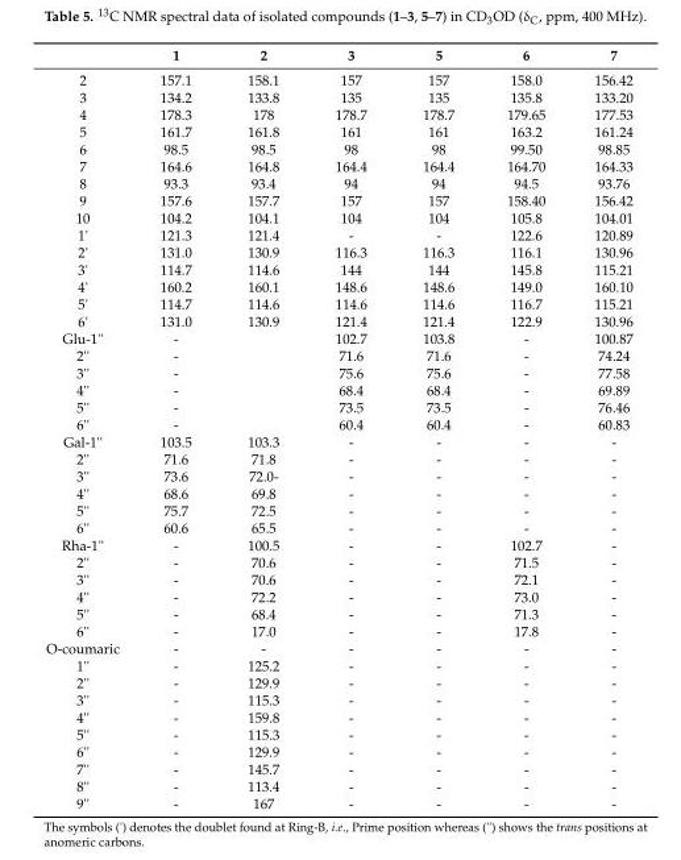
<table><thead><tr><td></td><td>1</td><td>2</td><td>3</td><td>5</td><td>6</td><td>7</td></tr></thead><tbody><tr><td>2</td><td>157.1</td><td>158.1</td><td>157</td><td>157</td><td>158.0</td><td>156.42</td></tr><tr><td>3</td><td>134.2</td><td>133.8</td><td>135</td><td>135</td><td>135.8</td><td>133.20</td></tr><tr><td>4</td><td>178.3</td><td>178</td><td>178.7</td><td>178.7</td><td>179.65</td><td>177.53</td></tr><tr><td>5</td><td>161.7</td><td>161.8</td><td>161</td><td>161</td><td>163.2</td><td>161.24</td></tr><tr><td>6</td><td>98.5</td><td>98.5</td><td>98</td><td>98</td><td>99.50</td><td>98.85</td></tr><tr><td>7</td><td>164.6</td><td>164.8</td><td>164.4</td><td>164.4</td><td>164.70</td><td>164.33</td></tr><tr><td>8</td><td>93.3</td><td>93.4</td><td>94</td><td>94</td><td>94.5</td><td>93.76</td></tr><tr><td>9</td><td>157.6</td><td>157.7</td><td>157</td><td>157</td><td>158.40</td><td>156.42</td></tr><tr><td>10</td><td>104.2</td><td>104.1</td><td>104</td><td>104</td><td>105.8</td><td>104.01</td></tr><tr><td>1&#x27;</td><td>121.3</td><td>121.4</td><td>-</td><td>-</td><td>122.6</td><td>120.89</td></tr><tr><td>2&#x27;</td><td>131.0</td><td>130.9</td><td>116.3</td><td>116.3</td><td>116.1</td><td>130.96</td></tr><tr><td>3&#x27;</td><td>114.7</td><td>114.6</td><td>144</td><td>144</td><td>145.8</td><td>115.21</td></tr><tr><td>4&#x27;</td><td>160.2</td><td>160.1</td><td>148.6</td><td>148.6</td><td>149.0</td><td>160.10</td></tr><tr><td>5&#x27;</td><td>114.7</td><td>114.6</td><td>114.6</td><td>114.6</td><td>116.7</td><td>115.21</td></tr><tr><td>6&#x27;</td><td>131.0</td><td>130.9</td><td>121.4</td><td>121.4</td><td>122.9</td><td>130.96</td></tr><tr><td>Glu-1&#x27;&#x27;</td><td>-</td><td></td><td>102.7</td><td>103.8</td><td>-</td><td>100.87</td></tr><tr><td>2&#x27;&#x27;</td><td>-</td><td></td><td>71.6</td><td>71.6</td><td>-</td><td>74.24</td></tr><tr><td>3&#x27;&#x27;</td><td>-</td><td></td><td>75.6</td><td>75.6</td><td>-</td><td>77.58</td></tr><tr><td>4&#x27;&#x27;</td><td>-</td><td></td><td>68.4</td><td>68.4</td><td>-</td><td>69.89</td></tr><tr><td>5&#x27;&#x27;</td><td>-</td><td></td><td>73.5</td><td>73.5</td><td>-</td><td>76.46</td></tr><tr><td>6&#x27;&#x27;</td><td>-</td><td></td><td>60.4</td><td>60.4</td><td>-</td><td>60.83</td></tr><tr><td>Gal-1&#x27;&#x27;</td><td>103.5</td><td>103.3</td><td>-</td><td>-</td><td>-</td><td>-</td></tr><tr><td>2&#x27;&#x27;</td><td>71.6</td><td>71.8</td><td>-</td><td>-</td><td>-</td><td>-</td></tr><tr><td>3&#x27;&#x27;</td><td>73.6</td><td>72.0-</td><td>-</td><td>-</td><td>-</td><td>-</td></tr><tr><td>4&#x27;&#x27;</td><td>68.6</td><td>69.8</td><td>-</td><td>-</td><td>-</td><td>-</td></tr><tr><td>5&#x27;&#x27;</td><td>75.7</td><td>72.5</td><td>-</td><td>-</td><td>-</td><td>-</td></tr><tr><td>6&#x27;&#x27;</td><td>60.6</td><td>65.5</td><td>-</td><td>-</td><td>-</td><td>-</td></tr><tr><td>Rha-1&#x27;&#x27;</td><td>-</td><td>100.5</td><td>-</td><td>-</td><td>102.7</td><td>-</td></tr><tr><td>2&#x27;&#x27;</td><td>-</td><td>70.6</td><td>-</td><td>-</td><td>71.5</td><td>-</td></tr><tr><td>3&#x27;&#x27;</td><td>-</td><td>70.6</td><td>-</td><td>-</td><td>72.1</td><td>-</td></tr><tr><td>4&#x27;&#x27;</td><td>-</td><td>72.2</td><td>-</td><td>-</td><td>73.0</td><td>-</td></tr><tr><td>5&#x27;&#x27;</td><td>-</td><td>68.4</td><td>-</td><td>-</td><td>71.3</td><td>-</td></tr><tr><td>6&#x27;&#x27;</td><td>-</td><td>17.0</td><td>-</td><td>-</td><td>17.8</td><td>-</td></tr><tr><td>O-coumaric</td><td>-</td><td>-</td><td>-</td><td>-</td><td>-</td><td>-</td></tr><tr><td>1&#x27;&#x27;</td><td>-</td><td>125.2</td><td>-</td><td>-</td><td>-</td><td>-</td></tr><tr><td>2&#x27;&#x27;</td><td>-</td><td>129.9</td><td>-</td><td>-</td><td>-</td><td>-</td></tr><tr><td>3&#x27;&#x27;</td><td>-</td><td>115.3</td><td>-</td><td>-</td><td>-</td><td>-</td></tr><tr><td>4&#x27;&#x27;</td><td>-</td><td>159.8</td><td>-</td><td>-</td><td>-</td><td>-</td></tr><tr><td>5&#x27;&#x27;</td><td>-</td><td>115.3</td><td>-</td><td>-</td><td>-</td><td>-</td></tr><tr><td>6&#x27;&#x27;</td><td>-</td><td>129.9</td><td>-</td><td>-</td><td>-</td><td>-</td></tr><tr><td>7&#x27;&#x27;</td><td>-</td><td>145.7</td><td>-</td><td>-</td><td>-</td><td>-</td></tr><tr><td>8&#x27;&#x27;</td><td>-</td><td>113.4</td><td>-</td><td>-</td><td>-</td><td>-</td></tr><tr><td>9&#x27;&#x27;</td><td>-</td><td>167</td><td>-</td><td>-</td><td>-</td><td>-</td></tr></tbody></table>